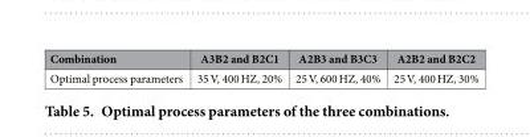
<table><thead><tr><td>Combination</td><td>A3B2 and B2C1</td><td>A2B3 and B3C3</td><td>A2B2 and B2C2</td></tr></thead><tbody><tr><td>Optimal process parameters</td><td>35 V, 400 HZ, 20%</td><td>25 V, 600 HZ, 40%</td><td>25 V, 400 HZ, 30%</td></tr></tbody></table>